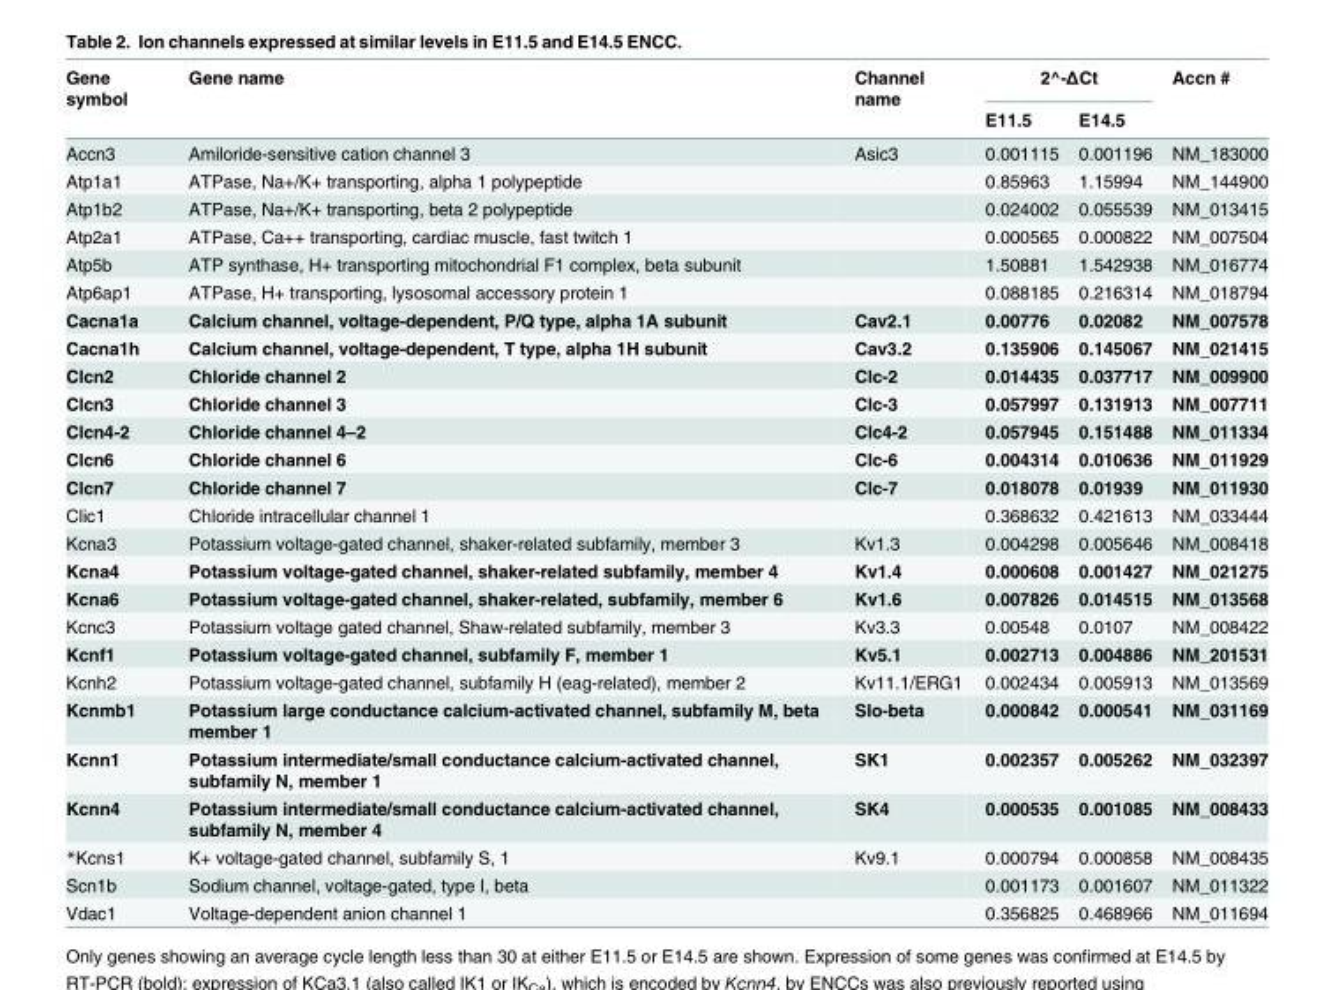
<table><thead><tr><td rowspan="2">Gene symbol</td><td rowspan="2">Gene name</td><td rowspan="2">Channel name</td><td colspan="2">2^-ΔCt</td><td rowspan="2">Accn #</td></tr><tr><td>E11.5</td><td>E14.5</td></tr></thead><tbody><tr><td>Accn3</td><td>Amiloride-sensitive cation channel 3</td><td>Asic3</td><td>0.001115</td><td>0.001196</td><td>NM_183000</td></tr><tr><td>Atp1a1</td><td>ATPase, Na+/K+ transporting, alpha 1 polypeptide</td><td></td><td>0.85963</td><td>1.15994</td><td>NM_144900</td></tr><tr><td>Atp1b2</td><td>ATPase, Na+/K+ transporting, beta 2 polypeptide</td><td></td><td>0.024002</td><td>0.055539</td><td>NM_013415</td></tr><tr><td>Atp2a1</td><td>ATPase, Ca++ transporting, cardiac muscle, fast twitch 1</td><td></td><td>0.000565</td><td>0.000822</td><td>NM_007504</td></tr><tr><td>Atp5b</td><td>ATP synthase, H+ transporting mitochondrial F1 complex, beta subunit</td><td></td><td>1.50881</td><td>1.542938</td><td>NM_016774</td></tr><tr><td>Atp6ap1</td><td>ATPase, H+ transporting, lysosomal accessory protein 1</td><td></td><td>0.088185</td><td>0.216314</td><td>NM_018794</td></tr><tr><td>Cacna1a</td><td>Calcium channel, voltage-dependent, P/Q type, alpha 1A subunit</td><td>Cav2.1</td><td>0.00776</td><td>0.02082</td><td>NM_007578</td></tr><tr><td>Cacna1h</td><td>Calcium channel, voltage-dependent, T type, alpha 1H subunit</td><td>Cav3.2</td><td>0.135906</td><td>0.145067</td><td>NM_021415</td></tr><tr><td>Clcn2</td><td>Chloride channel 2</td><td>Clc-2</td><td>0.014435</td><td>0.037717</td><td>NM_009900</td></tr><tr><td>Clcn3</td><td>Chloride channel 3</td><td>Clc-3</td><td>0.057997</td><td>0.131913</td><td>NM_007711</td></tr><tr><td>Clcn4-2</td><td>Chloride channel 4–2</td><td>Clc4-2</td><td>0.057945</td><td>0.151488</td><td>NM_011334</td></tr><tr><td>Clcn6</td><td>Chloride channel 6</td><td>Clc-6</td><td>0.004314</td><td>0.010636</td><td>NM_011929</td></tr><tr><td>Clcn7</td><td>Chloride channel 7</td><td>Clc-7</td><td>0.018078</td><td>0.01939</td><td>NM_011930</td></tr><tr><td>Clic1</td><td>Chloride intracellular channel 1</td><td></td><td>0.368632</td><td>0.421613</td><td>NM_033444</td></tr><tr><td>Kcna3</td><td>Potassium voltage-gated channel, shaker-related subfamily, member 3</td><td>Kv1.3</td><td>0.004298</td><td>0.005646</td><td>NM_008418</td></tr><tr><td>Kcna4</td><td>Potassium voltage-gated channel, shaker-related subfamily, member 4</td><td>Kv1.4</td><td>0.000608</td><td>0.001427</td><td>NM_021275</td></tr><tr><td>Kcna6</td><td>Potassium voltage-gated channel, shaker-related, subfamily, member 6</td><td>Kv1.6</td><td>0.007826</td><td>0.014515</td><td>NM_013568</td></tr><tr><td>Kcnc3</td><td>Potassium voltage gated channel, Shaw-related subfamily, member 3</td><td>Kv3.3</td><td>0.00548</td><td>0.0107</td><td>NM_008422</td></tr><tr><td>Kcnf1</td><td>Potassium voltage-gated channel, subfamily F, member 1</td><td>Kv5.1</td><td>0.002713</td><td>0.004886</td><td>NM_201531</td></tr><tr><td>Kcnh2</td><td>Potassium voltage-gated channel, subfamily H (eag-related), member 2</td><td>Kv11.1/ERG1</td><td>0.002434</td><td>0.005913</td><td>NM_013569</td></tr><tr><td>Kcnmb1</td><td>Potassium large conductance calcium-activated channel, subfamily M, beta member 1</td><td>Slo-beta</td><td>0.000842</td><td>0.000541</td><td>NM_031169</td></tr><tr><td>Kcnn1</td><td>Potassium intermediate/small conductance calcium-activated channel, subfamily N, member 1</td><td>SK1</td><td>0.002357</td><td>0.005262</td><td>NM_032397</td></tr><tr><td>Kcnn4</td><td>Potassium intermediate/small conductance calcium-activated channel, subfamily N, member 4</td><td>SK4</td><td>0.000535</td><td>0.001085</td><td>NM_008433</td></tr><tr><td>*Kcns1</td><td>K+ voltage-gated channel, subfamily S, 1</td><td>Kv9.1</td><td>0.000794</td><td>0.000858</td><td>NM_008435</td></tr><tr><td>Scn1b</td><td>Sodium channel, voltage-gated, type I, beta</td><td></td><td>0.001173</td><td>0.001607</td><td>NM_011322</td></tr><tr><td>Vdac1</td><td>Voltage-dependent anion channel 1</td><td></td><td>0.356825</td><td>0.468966</td><td>NM_011694</td></tr></tbody></table>